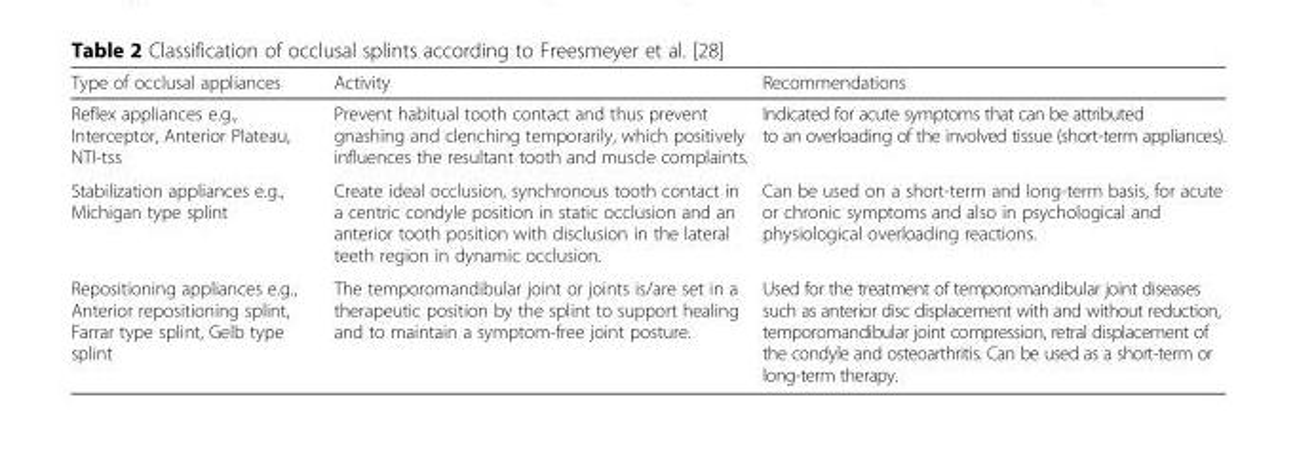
<table><thead><tr><td>Type of occlusal appliances</td><td>Activity</td><td>Recommendations</td></tr></thead><tbody><tr><td>Reflex appliances e.g., Interceptor, Anterior Plateau, NTI-tss</td><td>Prevent habitual tooth contact and thus prevent gnashing and clenching temporarily, which positively influences the resultant tooth and muscle complaints.</td><td>Indicated for acute symptoms that can be attributed to an overloading of the involved tissue (short-term appliances).</td></tr><tr><td>Stabilization appliances e.g., Michigan type splint</td><td>Create ideal occlusion, synchronous tooth contact in a centric condyle position in static occlusion and an anterior tooth position with disclusion in the lateral teeth region in dynamic occlusion.</td><td>Can be used on a short-term and long-term basis, for acute or chronic symptoms and also in psychological and physiological overloading reactions.</td></tr><tr><td>Repositioning appliances e.g., Anterior repositioning splint, Farrar type splint, Gelb type splint</td><td>The temporomandibular joint or joints is/are set in a therapeutic position by the splint to support healing and to maintain a symptom-free joint posture.</td><td>Used for the treatment of temporomandibular joint diseases such as anterior disc displacement with and without reduction, temporomandibular joint compression, retral displacement of the condyle and osteoarthritis. Can be used as a short-term or long-term therapy.</td></tr></tbody></table>